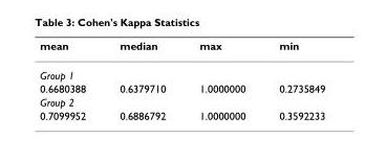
<table><thead><tr><td>mean</td><td>median</td><td>max</td><td>min</td></tr></thead><tbody><tr><td colspan="4">Group 1</td></tr><tr><td>0.6680388</td><td>0.6379710</td><td>1.0000000</td><td>0.2735849</td></tr><tr><td colspan="4">Group 2</td></tr><tr><td>0.7099952</td><td>0.6886792</td><td>1.0000000</td><td>0.3592233</td></tr></tbody></table>